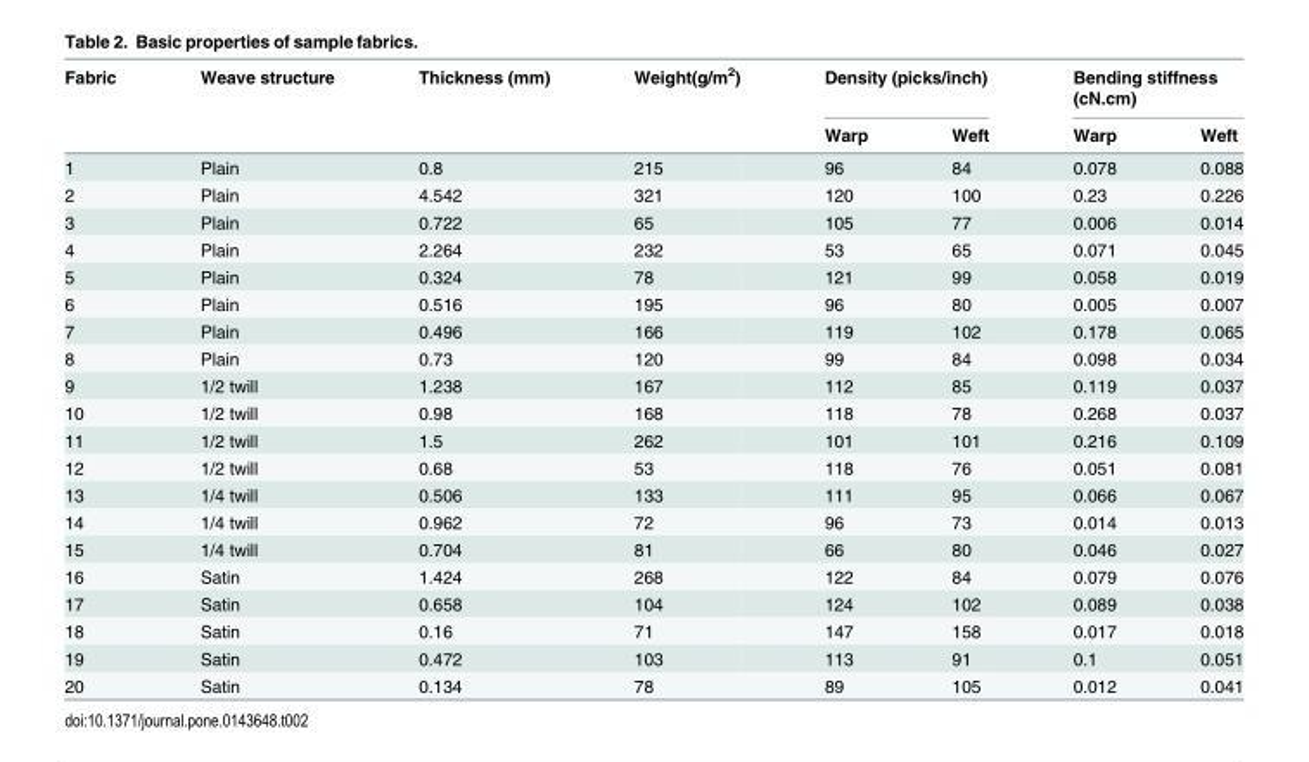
<table><thead><tr><td rowspan="2">Fabric</td><td rowspan="2">Weave structure</td><td rowspan="2">Thickness (mm)</td><td rowspan="2">Weight(g/m<sup>2</sup>)</td><td colspan="2">Density (picks/inch)</td><td colspan="2">Bending stiffness (cN.cm)</td></tr><tr><td>Warp</td><td>Weft</td><td>Warp</td><td>Weft</td></tr></thead><tbody><tr><td>1</td><td>Plain</td><td>0.8</td><td>215</td><td>96</td><td>84</td><td>0.078</td><td>0.088</td></tr><tr><td>2</td><td>Plain</td><td>4.542</td><td>321</td><td>120</td><td>100</td><td>0.23</td><td>0.226</td></tr><tr><td>3</td><td>Plain</td><td>0.722</td><td>65</td><td>105</td><td>77</td><td>0.006</td><td>0.014</td></tr><tr><td>4</td><td>Plain</td><td>2.264</td><td>232</td><td>53</td><td>65</td><td>0.071</td><td>0.045</td></tr><tr><td>5</td><td>Plain</td><td>0.324</td><td>78</td><td>121</td><td>99</td><td>0.058</td><td>0.019</td></tr><tr><td>6</td><td>Plain</td><td>0.516</td><td>195</td><td>96</td><td>80</td><td>0.005</td><td>0.007</td></tr><tr><td>7</td><td>Plain</td><td>0.496</td><td>166</td><td>119</td><td>102</td><td>0.178</td><td>0.065</td></tr><tr><td>8</td><td>Plain</td><td>0.73</td><td>120</td><td>99</td><td>84</td><td>0.098</td><td>0.034</td></tr><tr><td>9</td><td>1/2 twill</td><td>1.238</td><td>167</td><td>112</td><td>85</td><td>0.119</td><td>0.037</td></tr><tr><td>10</td><td>1/2 twill</td><td>0.98</td><td>168</td><td>118</td><td>78</td><td>0.268</td><td>0.037</td></tr><tr><td>11</td><td>1/2 twill</td><td>1.5</td><td>262</td><td>101</td><td>101</td><td>0.216</td><td>0.109</td></tr><tr><td>12</td><td>1/2 twill</td><td>0.68</td><td>53</td><td>118</td><td>76</td><td>0.051</td><td>0.081</td></tr><tr><td>13</td><td>1/4 twill</td><td>0.506</td><td>133</td><td>111</td><td>95</td><td>0.066</td><td>0.067</td></tr><tr><td>14</td><td>1/4 twill</td><td>0.962</td><td>72</td><td>96</td><td>73</td><td>0.014</td><td>0.013</td></tr><tr><td>15</td><td>1/4 twill</td><td>0.704</td><td>81</td><td>66</td><td>80</td><td>0.046</td><td>0.027</td></tr><tr><td>16</td><td>Satin</td><td>1.424</td><td>268</td><td>122</td><td>84</td><td>0.079</td><td>0.076</td></tr><tr><td>17</td><td>Satin</td><td>0.658</td><td>104</td><td>124</td><td>102</td><td>0.089</td><td>0.038</td></tr><tr><td>18</td><td>Satin</td><td>0.16</td><td>71</td><td>147</td><td>158</td><td>0.017</td><td>0.018</td></tr><tr><td>19</td><td>Satin</td><td>0.472</td><td>103</td><td>113</td><td>91</td><td>0.1</td><td>0.051</td></tr><tr><td>20</td><td>Satin</td><td>0.134</td><td>78</td><td>89</td><td>105</td><td>0.012</td><td>0.041</td></tr></tbody></table>